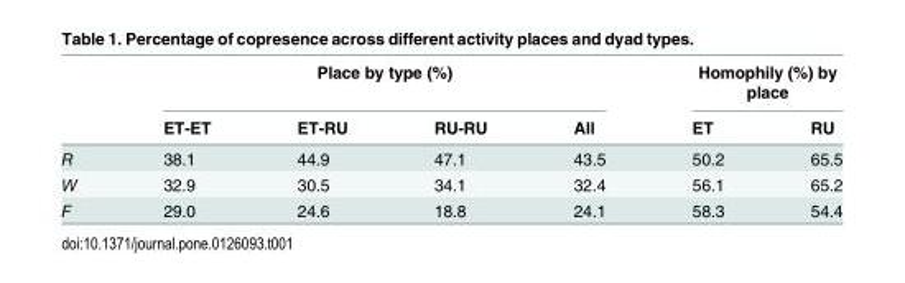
<table><thead><tr><td rowspan="2"></td><td colspan="4">Place by type (%)</td><td colspan="2">Homophily (%) by place</td></tr><tr><td>ET-ET</td><td>ET-RU</td><td>RU-RU</td><td>All</td><td>ET</td><td>RU</td></tr></thead><tbody><tr><td>R</td><td>38.1</td><td>44.9</td><td>47.1</td><td>43.5</td><td>50.2</td><td>65.5</td></tr><tr><td>W</td><td>32.9</td><td>30.5</td><td>34.1</td><td>32.4</td><td>56.1</td><td>65.2</td></tr><tr><td>F</td><td>29.0</td><td>24.6</td><td>18.8</td><td>24.1</td><td>58.3</td><td>54.4</td></tr></tbody></table>